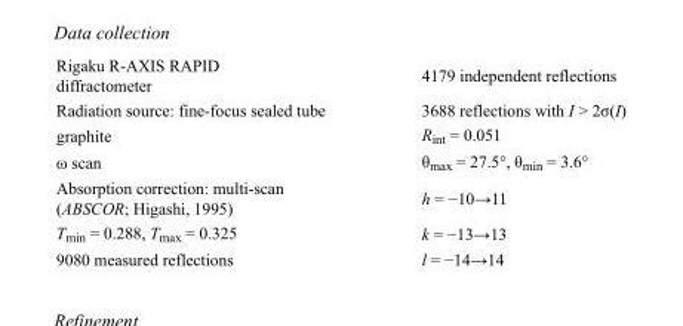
<table><tbody><tr><td>Rigaku R-AXIS RAPID diffractometer</td><td>4179 independent reflections</td></tr><tr><td>Radiation source: fine-focus sealed tube</td><td>3688 reflections with I &gt; 2σ(I)</td></tr><tr><td>graphite</td><td>R<sub>int</sub> = 0.051</td></tr><tr><td>ω scan</td><td>θ<sub>max</sub> = 27.5°, θ<sub>min</sub> = 3.6°</td></tr><tr><td>Absorption correction: multi-scan (ABSCOR; Higashi, 1995)</td><td>h = −10→11</td></tr><tr><td>T<sub>min</sub> = 0.288, T<sub>max</sub> = 0.325</td><td>k = −13→13</td></tr><tr><td>9080 measured reflections</td><td>l = −14→14</td></tr></tbody></table>